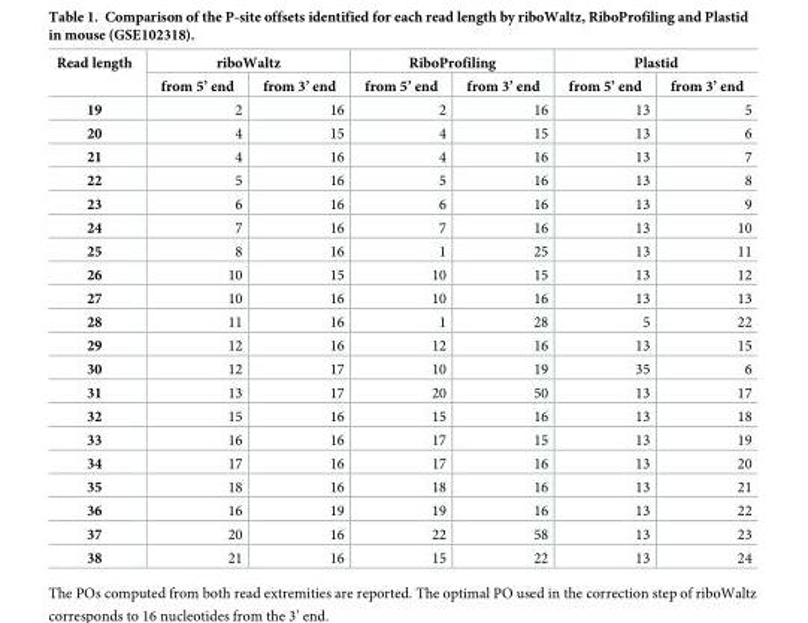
<table><thead><tr><td rowspan="2">Read length</td><td colspan="2">riboWaltz</td><td colspan="2">RiboProfiling</td><td colspan="2">Plastid</td></tr><tr><td>from 5’ end</td><td>from 3’ end</td><td>from 5’ end</td><td>from 3’ end</td><td>from 5’ end</td><td>from 3’ end</td></tr></thead><tbody><tr><td>19</td><td>2</td><td>16</td><td>2</td><td>16</td><td>13</td><td>5</td></tr><tr><td>20</td><td>4</td><td>15</td><td>4</td><td>15</td><td>13</td><td>6</td></tr><tr><td>21</td><td>4</td><td>16</td><td>4</td><td>16</td><td>13</td><td>7</td></tr><tr><td>22</td><td>5</td><td>16</td><td>5</td><td>16</td><td>13</td><td>8</td></tr><tr><td>23</td><td>6</td><td>16</td><td>6</td><td>16</td><td>13</td><td>9</td></tr><tr><td>24</td><td>7</td><td>16</td><td>7</td><td>16</td><td>13</td><td>10</td></tr><tr><td>25</td><td>8</td><td>16</td><td>1</td><td>25</td><td>13</td><td>11</td></tr><tr><td>26</td><td>10</td><td>15</td><td>10</td><td>15</td><td>13</td><td>12</td></tr><tr><td>27</td><td>10</td><td>16</td><td>10</td><td>16</td><td>13</td><td>13</td></tr><tr><td>28</td><td>11</td><td>16</td><td>1</td><td>28</td><td>5</td><td>22</td></tr><tr><td>29</td><td>12</td><td>16</td><td>12</td><td>16</td><td>13</td><td>15</td></tr><tr><td>30</td><td>12</td><td>17</td><td>10</td><td>19</td><td>35</td><td>6</td></tr><tr><td>31</td><td>13</td><td>17</td><td>20</td><td>50</td><td>13</td><td>17</td></tr><tr><td>32</td><td>15</td><td>16</td><td>15</td><td>16</td><td>13</td><td>18</td></tr><tr><td>33</td><td>16</td><td>16</td><td>17</td><td>15</td><td>13</td><td>19</td></tr><tr><td>34</td><td>17</td><td>16</td><td>17</td><td>16</td><td>13</td><td>20</td></tr><tr><td>35</td><td>18</td><td>16</td><td>18</td><td>16</td><td>13</td><td>21</td></tr><tr><td>36</td><td>16</td><td>19</td><td>19</td><td>16</td><td>13</td><td>22</td></tr><tr><td>37</td><td>20</td><td>16</td><td>22</td><td>58</td><td>13</td><td>23</td></tr><tr><td>38</td><td>21</td><td>16</td><td>15</td><td>22</td><td>13</td><td>24</td></tr></tbody></table>